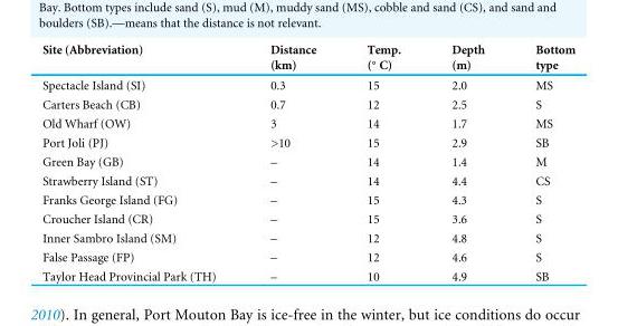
<table><thead><tr><td>Site (Abbreviation)</td><td>Distance (km)</td><td>Temp. (◦ C)</td><td>Depth (m)</td><td>Bottom type</td></tr></thead><tbody><tr><td>Spectacle Island (SI)</td><td>0.3</td><td>15</td><td>2.0</td><td>MS</td></tr><tr><td>Carters Beach (CB)</td><td>0.7</td><td>12</td><td>2.5</td><td>S</td></tr><tr><td>Old Wharf (OW)</td><td>3</td><td>14</td><td>1.7</td><td>MS</td></tr><tr><td>Port Joli (PJ)</td><td>&gt;10</td><td>15</td><td>2.9</td><td>SB</td></tr><tr><td>Green Bay (GB)</td><td>–</td><td>14</td><td>1.4</td><td>M</td></tr><tr><td>Strawberry Island (ST)</td><td>–</td><td>14</td><td>4.4</td><td>CS</td></tr><tr><td>Franks George Island (FG)</td><td>–</td><td>15</td><td>4.3</td><td>S</td></tr><tr><td>Croucher Island (CR)</td><td>–</td><td>15</td><td>3.6</td><td>S</td></tr><tr><td>Inner Sambro Island (SM)</td><td>–</td><td>12</td><td>4.8</td><td>S</td></tr><tr><td>False Passage (FP)</td><td>–</td><td>12</td><td>4.6</td><td>S</td></tr><tr><td>Taylor Head Provincial Park (TH)</td><td>–</td><td>10</td><td>4.9</td><td>SB</td></tr></tbody></table>